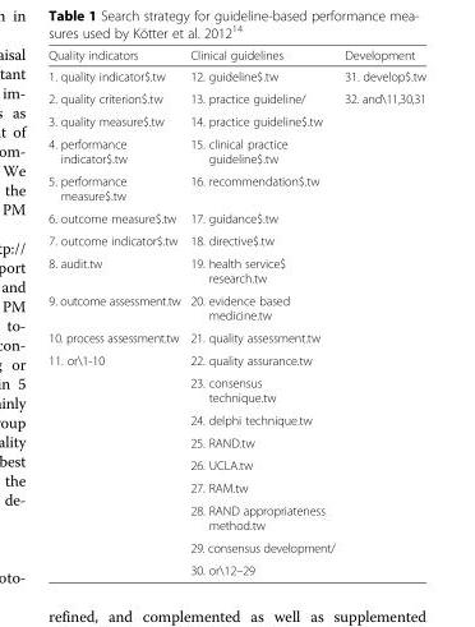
<table><thead><tr><td>Quality indicators</td><td>Clinical guidelines</td><td>Development</td></tr></thead><tbody><tr><td>1. quality indicator$.tw</td><td>12. guideline$.tw</td><td>31. develop$.tw</td></tr><tr><td>2. quality criterion$.tw</td><td>13. practice guideline/</td><td>32. and\11,30,31</td></tr><tr><td>3. quality measure$.tw</td><td>14. practice guideline$.tw</td><td></td></tr><tr><td>4. performance indicator$.tw</td><td>15. clinical practice guideline$.tw</td><td></td></tr><tr><td>5. performance measure$.tw</td><td>16. recommendation$.tw</td><td></td></tr><tr><td>6. outcome measure$.tw</td><td>17. guidance$.tw</td><td></td></tr><tr><td>7. outcome indicator$.tw</td><td>18. directive$.tw</td><td></td></tr><tr><td>8. audit.tw</td><td>19. health service$ research.tw</td><td></td></tr><tr><td>9. outcome assessment.tw</td><td>20. evidence based medicine.tw</td><td></td></tr><tr><td>10. process assessment.tw</td><td>21. quality assessment.tw</td><td></td></tr><tr><td rowspan="9">11. or\1-10</td><td>22. quality assurance.tw</td><td></td></tr><tr><td>23. consensus technique.tw</td><td></td></tr><tr><td>24. delphi technique.tw</td><td></td></tr><tr><td>25. RAND.tw</td><td></td></tr><tr><td>26. UCLA.tw</td><td></td></tr><tr><td>27. RAM.tw</td><td></td></tr><tr><td>28. RAND appropriateness method.tw</td><td></td></tr><tr><td>29. consensus development/</td><td></td></tr><tr><td>30. or\12–29</td><td></td></tr></tbody></table>